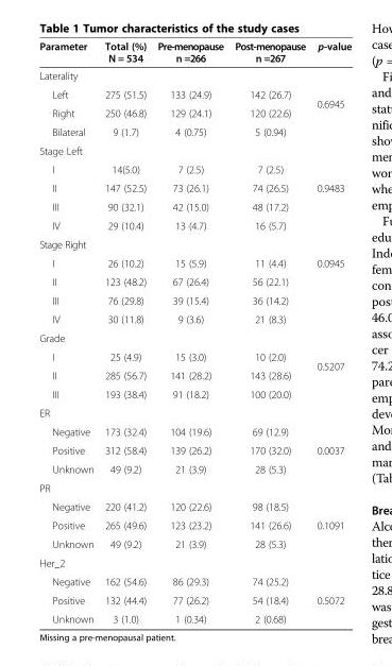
<table><thead><tr><td>Parameter</td><td>Total (%) N = 534</td><td>Pre-menopause n =266</td><td>Post-menopause n =267</td><td>p-value</td></tr></thead><tbody><tr><td colspan="4">Laterality</td><td rowspan="4">0.6945</td></tr><tr><td>Left</td><td>275 (51.5)</td><td>133 (24.9)</td><td>142 (26.7)</td></tr><tr><td>Right</td><td>250 (46.8)</td><td>129 (24.1)</td><td>120 (22.6)</td></tr><tr><td>Bilateral</td><td>9 (1.7)</td><td>4 (0.75)</td><td>5 (0.94)</td></tr><tr><td colspan="4">Stage Left</td><td rowspan="5">0.9483</td></tr><tr><td>I</td><td>14(5.0)</td><td>7 (2.5)</td><td>7 (2.5)</td></tr><tr><td>II</td><td>147 (52.5)</td><td>73 (26.1)</td><td>74 (26.5)</td></tr><tr><td>III</td><td>90 (32.1)</td><td>42 (15.0)</td><td>48 (17.2)</td></tr><tr><td>IV</td><td>29 (10.4)</td><td>13 (4.7)</td><td>16 (5.7)</td></tr><tr><td colspan="4">Stage Right</td><td rowspan="3">0.0945</td></tr><tr><td>I</td><td>26 (10.2)</td><td>15 (5.9)</td><td>11 (4.4)</td></tr><tr><td>II</td><td>123 (48.2)</td><td>67 (26.4)</td><td>56 (22.1)</td></tr><tr><td>III</td><td>76 (29.8)</td><td>39 (15.4)</td><td>36 (14.2)</td><td rowspan="2"></td></tr><tr><td>IV</td><td>30 (11.8)</td><td>9 (3.6)</td><td>21 (8.3)</td></tr><tr><td colspan="4">Grade</td><td rowspan="4">0.5207</td></tr><tr><td>I</td><td>25 (4.9)</td><td>15 (3.0)</td><td>10 (2.0)</td></tr><tr><td>II</td><td>285 (56.7)</td><td>141 (28.2)</td><td>143 (28.6)</td></tr><tr><td>III</td><td>193 (38.4)</td><td>91 (18.2)</td><td>100 (20.0)</td></tr><tr><td colspan="5">ER</td></tr><tr><td>Negative</td><td>173 (32.4)</td><td>104 (19.6)</td><td>69 (12.9)</td><td></td></tr><tr><td>Positive</td><td>312 (58.4)</td><td>139 (26.2)</td><td>170 (32.0)</td><td rowspan="2">0.0037</td></tr><tr><td>Unknown</td><td>49 (9.2)</td><td>21 (3.9)</td><td>28 (5.3)</td></tr><tr><td colspan="5">PR</td></tr><tr><td>Negative</td><td>220 (41.2)</td><td>120 (22.6)</td><td>98 (18.5)</td><td></td></tr><tr><td>Positive</td><td>265 (49.6)</td><td>123 (23.2)</td><td>141 (26.6)</td><td>0.1091</td></tr><tr><td>Unknown</td><td>49 (9.2)</td><td>21 (3.9)</td><td>28 (5.3)</td><td></td></tr><tr><td colspan="5">Her_2</td></tr><tr><td>Negative</td><td>162 (54.6)</td><td>86 (29.3)</td><td>74 (25.2)</td><td></td></tr><tr><td>Positive</td><td>132 (44.4)</td><td>77 (26.2)</td><td>54 (18.4)</td><td rowspan="2">0.5072</td></tr><tr><td>Unknown</td><td>3 (1.0)</td><td>1 (0.34)</td><td>2 (0.68)</td></tr></tbody></table>